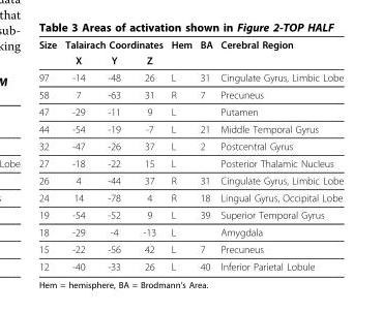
<table><thead><tr><td rowspan="2">Size</td><td colspan="3">Talairach Coordinates</td><td rowspan="2">Hem</td><td rowspan="2">BA</td><td rowspan="2">Cerebral Region</td></tr><tr><td>X</td><td>Y</td><td>Z</td></tr></thead><tbody><tr><td>97</td><td>-14</td><td>-48</td><td>26</td><td>L</td><td>31</td><td>Cingulate Gyrus, Limbic Lobe</td></tr><tr><td>58</td><td>7</td><td>-63</td><td>31</td><td>R</td><td>7</td><td>Precuneus</td></tr><tr><td>47</td><td>-29</td><td>-11</td><td>9</td><td>L</td><td></td><td>Putamen</td></tr><tr><td>44</td><td>-54</td><td>-19</td><td>-7</td><td>L</td><td>21</td><td>Middle Temporal Gyrus</td></tr><tr><td>32</td><td>-47</td><td>-26</td><td>37</td><td>L</td><td>2</td><td>Postcentral Gyrus</td></tr><tr><td>27</td><td>-18</td><td>-22</td><td>15</td><td>L</td><td></td><td>Posterior Thalamic Nucleus</td></tr><tr><td>26</td><td>4</td><td>-44</td><td>37</td><td>R</td><td>31</td><td>Cingulate Gyrus, Limbic Lobe</td></tr><tr><td>24</td><td>14</td><td>-78</td><td>4</td><td>R</td><td>18</td><td>Lingual Gyrus, Occipital Lobe</td></tr><tr><td>19</td><td>-54</td><td>-52</td><td>9</td><td>L</td><td>39</td><td>Superior Temporal Gyrus</td></tr><tr><td>18</td><td>-29</td><td>-4</td><td>-13</td><td>L</td><td></td><td>Amygdala</td></tr><tr><td>15</td><td>-22</td><td>-56</td><td>42</td><td>L</td><td>7</td><td>Precuneus</td></tr><tr><td>12</td><td>-40</td><td>-33</td><td>26</td><td>L</td><td>40</td><td>Inferior Parietal Lobule</td></tr></tbody></table>